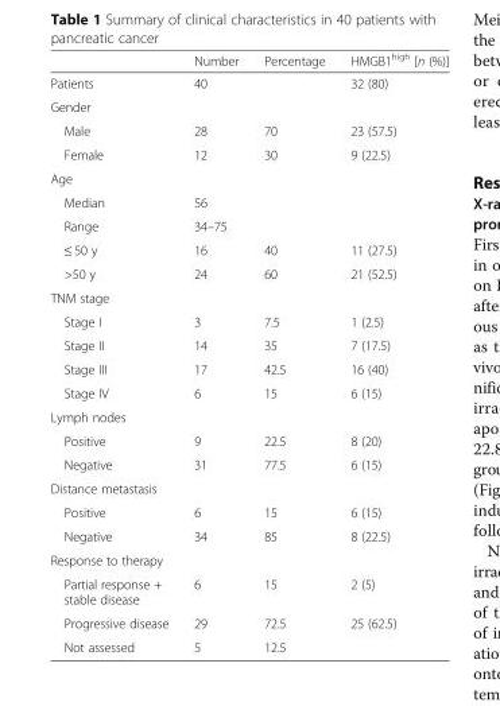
<table><thead><tr><td></td><td>Number</td><td>Percentage</td><td>HMGB1<sup>high</sup> [n (%)]</td></tr></thead><tbody><tr><td>Patients</td><td>40</td><td></td><td>32 (80)</td></tr><tr><td colspan="4">Gender</td></tr><tr><td>Male</td><td>28</td><td>70</td><td>23 (57.5)</td></tr><tr><td>Female</td><td>12</td><td>30</td><td>9 (22.5)</td></tr><tr><td colspan="4">Age</td></tr><tr><td>Median</td><td>56</td><td></td><td></td></tr><tr><td>Range</td><td>34–75</td><td></td><td></td></tr><tr><td>≤ 50 y</td><td>16</td><td>40</td><td>11 (27.5)</td></tr><tr><td>&gt;50 y</td><td>24</td><td>60</td><td>21 (52.5)</td></tr><tr><td colspan="4">TNM stage</td></tr><tr><td>Stage I</td><td>3</td><td>7.5</td><td>1 (2.5)</td></tr><tr><td>Stage II</td><td>14</td><td>35</td><td>7 (17.5)</td></tr><tr><td>Stage III</td><td>17</td><td>42.5</td><td>16 (40)</td></tr><tr><td>Stage IV</td><td>6</td><td>15</td><td>6 (15)</td></tr><tr><td colspan="4">Lymph nodes</td></tr><tr><td>Positive</td><td>9</td><td>22.5</td><td>8 (20)</td></tr><tr><td>Negative</td><td>31</td><td>77.5</td><td>6 (15)</td></tr><tr><td colspan="4">Distance metastasis</td></tr><tr><td>Positive</td><td>6</td><td>15</td><td>6 (15)</td></tr><tr><td>Negative</td><td>34</td><td>85</td><td>8 (22.5)</td></tr><tr><td colspan="4">Response to therapy</td></tr><tr><td>Partial response + stable disease</td><td>6</td><td>15</td><td>2 (5)</td></tr><tr><td>Progressive disease</td><td>29</td><td>72.5</td><td>25 (62.5)</td></tr><tr><td>Not assessed</td><td>5</td><td>12.5</td><td></td></tr></tbody></table>